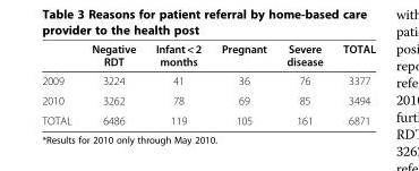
<table><thead><tr><td></td><td>Negative RDT</td><td>Infant &lt; 2 months</td><td>Pregnant</td><td>Severe disease</td><td>TOTAL</td></tr></thead><tbody><tr><td>2009</td><td>3224</td><td>41</td><td>36</td><td>76</td><td>3377</td></tr><tr><td>2010</td><td>3262</td><td>78</td><td>69</td><td>85</td><td>3494</td></tr><tr><td>TOTAL</td><td>6486</td><td>119</td><td>105</td><td>161</td><td>6871</td></tr></tbody></table>